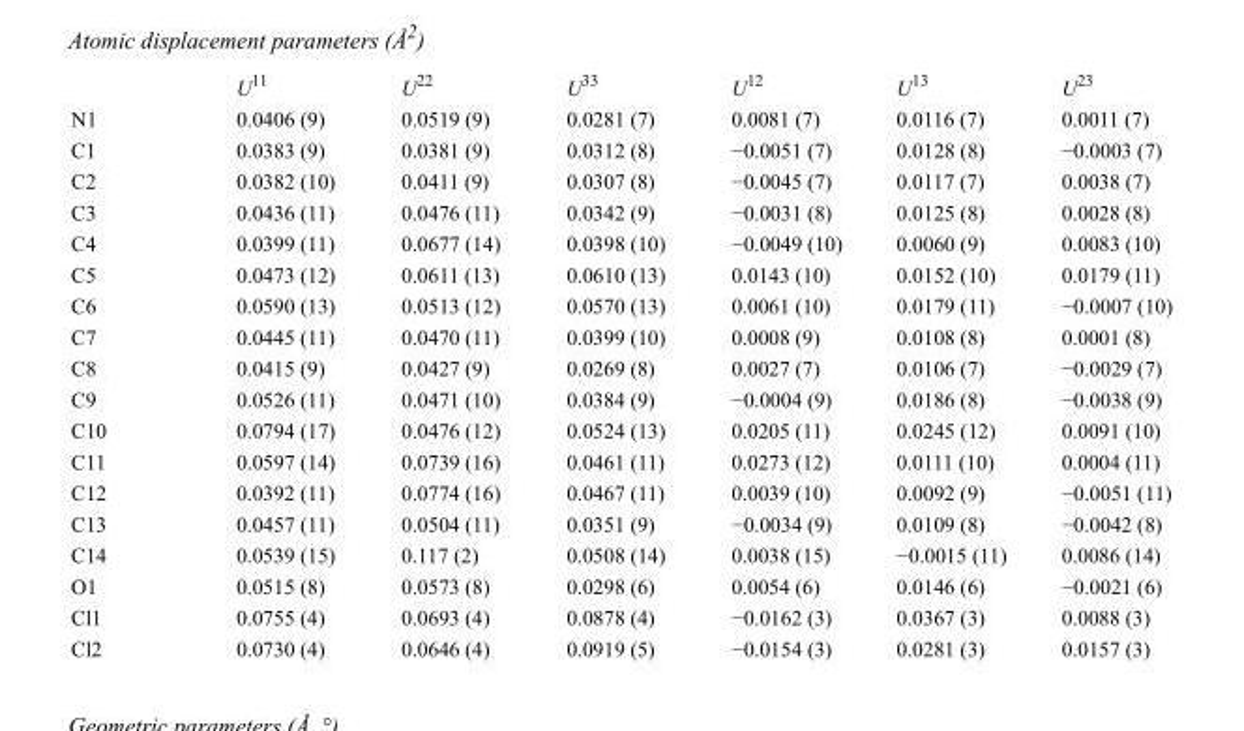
<table><thead><tr><td></td><td>U<sup>11</sup></td><td>U<sup>22</sup></td><td>U<sup>33</sup></td><td>U<sup>12</sup></td><td>U<sup>13</sup></td><td>U<sup>23</sup></td></tr></thead><tbody><tr><td>N1</td><td>0.0406 (9)</td><td>0.0519 (9)</td><td>0.0281 (7)</td><td>0.0081 (7)</td><td>0.0116 (7)</td><td>0.0011 (7)</td></tr><tr><td>C1</td><td>0.0383 (9)</td><td>0.0381 (9)</td><td>0.0312 (8)</td><td>−0.0051 (7)</td><td>0.0128 (8)</td><td>−0.0003 (7)</td></tr><tr><td>C2</td><td>0.0382 (10)</td><td>0.0411 (9)</td><td>0.0307 (8)</td><td>−0.0045 (7)</td><td>0.0117 (7)</td><td>0.0038 (7)</td></tr><tr><td>C3</td><td>0.0436 (11)</td><td>0.0476 (11)</td><td>0.0342 (9)</td><td>−0.0031 (8)</td><td>0.0125 (8)</td><td>0.0028 (8)</td></tr><tr><td>C4</td><td>0.0399 (11)</td><td>0.0677 (14)</td><td>0.0398 (10)</td><td>−0.0049 (10)</td><td>0.0060 (9)</td><td>0.0083 (10)</td></tr><tr><td>C5</td><td>0.0473 (12)</td><td>0.0611 (13)</td><td>0.0610 (13)</td><td>0.0143 (10)</td><td>0.0152 (10)</td><td>0.0179 (11)</td></tr><tr><td>C6</td><td>0.0590 (13)</td><td>0.0513 (12)</td><td>0.0570 (13)</td><td>0.0061 (10)</td><td>0.0179 (11)</td><td>−0.0007 (10)</td></tr><tr><td>C7</td><td>0.0445 (11)</td><td>0.0470 (11)</td><td>0.0399 (10)</td><td>0.0008 (9)</td><td>0.0108 (8)</td><td>0.0001 (8)</td></tr><tr><td>C8</td><td>0.0415 (9)</td><td>0.0427 (9)</td><td>0.0269 (8)</td><td>0.0027 (7)</td><td>0.0106 (7)</td><td>−0.0029 (7)</td></tr><tr><td>C9</td><td>0.0526 (11)</td><td>0.0471 (10)</td><td>0.0384 (9)</td><td>−0.0004 (9)</td><td>0.0186 (8)</td><td>−0.0038 (9)</td></tr><tr><td>C10</td><td>0.0794 (17)</td><td>0.0476 (12)</td><td>0.0524 (13)</td><td>0.0205 (11)</td><td>0.0245 (12)</td><td>0.0091 (10)</td></tr><tr><td>C11</td><td>0.0597 (14)</td><td>0.0739 (16)</td><td>0.0461 (11)</td><td>0.0273 (12)</td><td>0.0111 (10)</td><td>0.0004 (11)</td></tr><tr><td>C12</td><td>0.0392 (11)</td><td>0.0774 (16)</td><td>0.0467 (11)</td><td>0.0039 (10)</td><td>0.0092 (9)</td><td>−0.0051 (11)</td></tr><tr><td>C13</td><td>0.0457 (11)</td><td>0.0504 (11)</td><td>0.0351 (9)</td><td>−0.0034 (9)</td><td>0.0109 (8)</td><td>−0.0042 (8)</td></tr><tr><td>C14</td><td>0.0539 (15)</td><td>0.117 (2)</td><td>0.0508 (14)</td><td>0.0038 (15)</td><td>−0.0015 (11)</td><td>0.0086 (14)</td></tr><tr><td>O1</td><td>0.0515 (8)</td><td>0.0573 (8)</td><td>0.0298 (6)</td><td>0.0054 (6)</td><td>0.0146 (6)</td><td>−0.0021 (6)</td></tr><tr><td>Cl1</td><td>0.0755 (4)</td><td>0.0693 (4)</td><td>0.0878 (4)</td><td>−0.0162 (3)</td><td>0.0367 (3)</td><td>0.0088 (3)</td></tr><tr><td>Cl2</td><td>0.0730 (4)</td><td>0.0646 (4)</td><td>0.0919 (5)</td><td>−0.0154 (3)</td><td>0.0281 (3)</td><td>0.0157 (3)</td></tr></tbody></table>